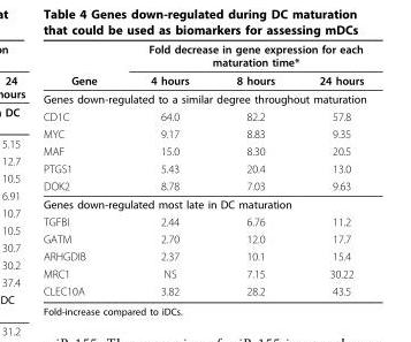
<table><thead><tr><td rowspan="2">Gene</td><td colspan="3">Fold decrease in gene expression for each maturation time*</td></tr><tr><td>4 hours</td><td>8 hours</td><td>24 hours</td></tr></thead><tbody><tr><td colspan="4">Genes down-regulated to a similar degree throughout maturation</td></tr><tr><td>CD1C</td><td>64.0</td><td>82.2</td><td>57.8</td></tr><tr><td>MYC</td><td>9.17</td><td>8.83</td><td>9.35</td></tr><tr><td>MAF</td><td>15.0</td><td>8.30</td><td>20.5</td></tr><tr><td>PTGS1</td><td>5.43</td><td>20.4</td><td>13.0</td></tr><tr><td>DOK2</td><td>8.78</td><td>7.03</td><td>9.63</td></tr><tr><td colspan="4">Genes down-regulated most late in DC maturation</td></tr><tr><td>TGFBI</td><td>2.44</td><td>6.76</td><td>11.2</td></tr><tr><td>GATM</td><td>2.70</td><td>12.0</td><td>17.7</td></tr><tr><td>ARHGDIB</td><td>2.37</td><td>10.1</td><td>15.4</td></tr><tr><td>MRC1</td><td>NS</td><td>7.15</td><td>30.22</td></tr><tr><td>CLEC10A</td><td>3.82</td><td>28.2</td><td>43.5</td></tr></tbody></table>